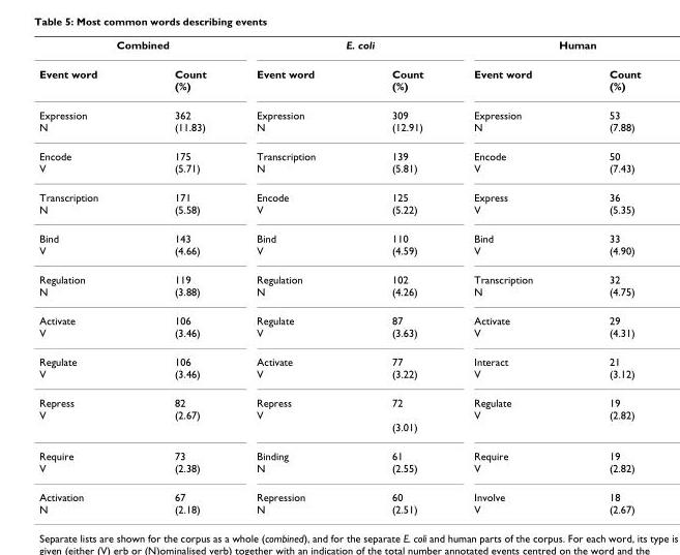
<table><tbody><tr><td colspan="2">Combined</td><td colspan="2">E. coli</td><td colspan="2">Human</td></tr><tr><td>Event word</td><td>Count (%)</td><td>Event word</td><td>Count (%)</td><td>Event word</td><td>Count (%)</td></tr><tr><td>Expression N</td><td>362 (11.83)</td><td>Expression N</td><td>309 (12.91)</td><td>Expression N</td><td>53 (7.88)</td></tr><tr><td>Encode V</td><td>175 (5.71)</td><td>Transcription N</td><td>139 (5.81)</td><td>Encode V</td><td>50 (7.43)</td></tr><tr><td>Transcription N</td><td>171 (5.58)</td><td>Encode V</td><td>125 (5.22)</td><td>Express V</td><td>36 (5.35)</td></tr><tr><td>Bind V</td><td>143 (4.66)</td><td>Bind V</td><td>110 (4.59)</td><td>Bind V</td><td>33 (4.90)</td></tr><tr><td>Regulation N</td><td>119 (3.88)</td><td>Regulation N</td><td>102 (4.26)</td><td>Transcription N</td><td>32 (4.75)</td></tr><tr><td>Activate V</td><td>106 (3.46)</td><td>Regulate V</td><td>87 (3.63)</td><td>Activate V</td><td>29 (4.31)</td></tr><tr><td>Regulate V</td><td>106 (3.46)</td><td>Activate V</td><td>77 (3.22)</td><td>Interact V</td><td>21 (3.12)</td></tr><tr><td>Repress V</td><td>82 (2.67)</td><td>Repress V</td><td>72 (3.01)</td><td>Regulate V</td><td>19 (2.82)</td></tr><tr><td>Require V</td><td>73 (2.38)</td><td>Binding N</td><td>61 (2.55)</td><td>Require V</td><td>19 (2.82)</td></tr><tr><td>Activation N</td><td>67 (2.18)</td><td>Repression N</td><td>60 (2.51)</td><td>Involve V</td><td>18 (2.67)</td></tr></tbody></table>